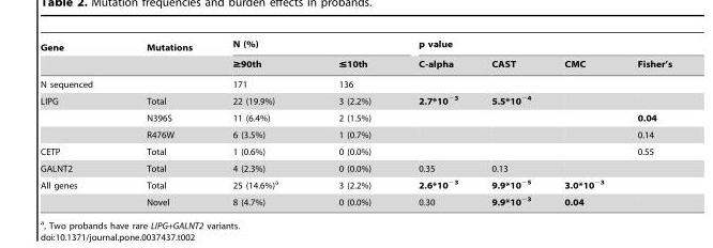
<table><thead><tr><td rowspan="2">Gene</td><td rowspan="2">Mutations</td><td colspan="2">N (%)</td><td colspan="4">p value</td></tr><tr><td>≥90th</td><td>≤10th</td><td>C-alpha</td><td>CAST</td><td>CMC</td><td>Fisher’s</td></tr></thead><tbody><tr><td>N sequenced</td><td></td><td>171</td><td>136</td><td></td><td></td><td></td><td></td></tr><tr><td rowspan="3">LIPG</td><td>Total</td><td>22 (19.9%)</td><td>3 (2.2%)</td><td>2.7*10<sup>−3</sup></td><td>5.5*10<sup>−4</sup></td><td></td><td></td></tr><tr><td>N396S</td><td>11 (6.4%)</td><td>2 (1.5%)</td><td></td><td></td><td></td><td>0.04</td></tr><tr><td>R476W</td><td>6 (3.5%)</td><td>1 (0.7%)</td><td></td><td></td><td></td><td>0.14</td></tr><tr><td>CETP</td><td>Total</td><td>1 (0.6%)</td><td>0 (0.0%)</td><td></td><td></td><td></td><td>0.55</td></tr><tr><td>GALNT2</td><td>Total</td><td>4 (2.3%)</td><td>0 (0.0%)</td><td>0.35</td><td>0.13</td><td></td><td></td></tr><tr><td rowspan="2">All genes</td><td>Total</td><td>25 (14.6%)<sup>a</sup></td><td>3 (2.2%)</td><td>2.6*10<sup>−3</sup></td><td>9.9*10<sup>−5</sup></td><td>3.0*10<sup>−3</sup></td><td></td></tr><tr><td>Novel</td><td>8 (4.7%)</td><td>0 (0.0%)</td><td>0.30</td><td>9.9*10<sup>−3</sup></td><td>0.04</td><td></td></tr></tbody></table>